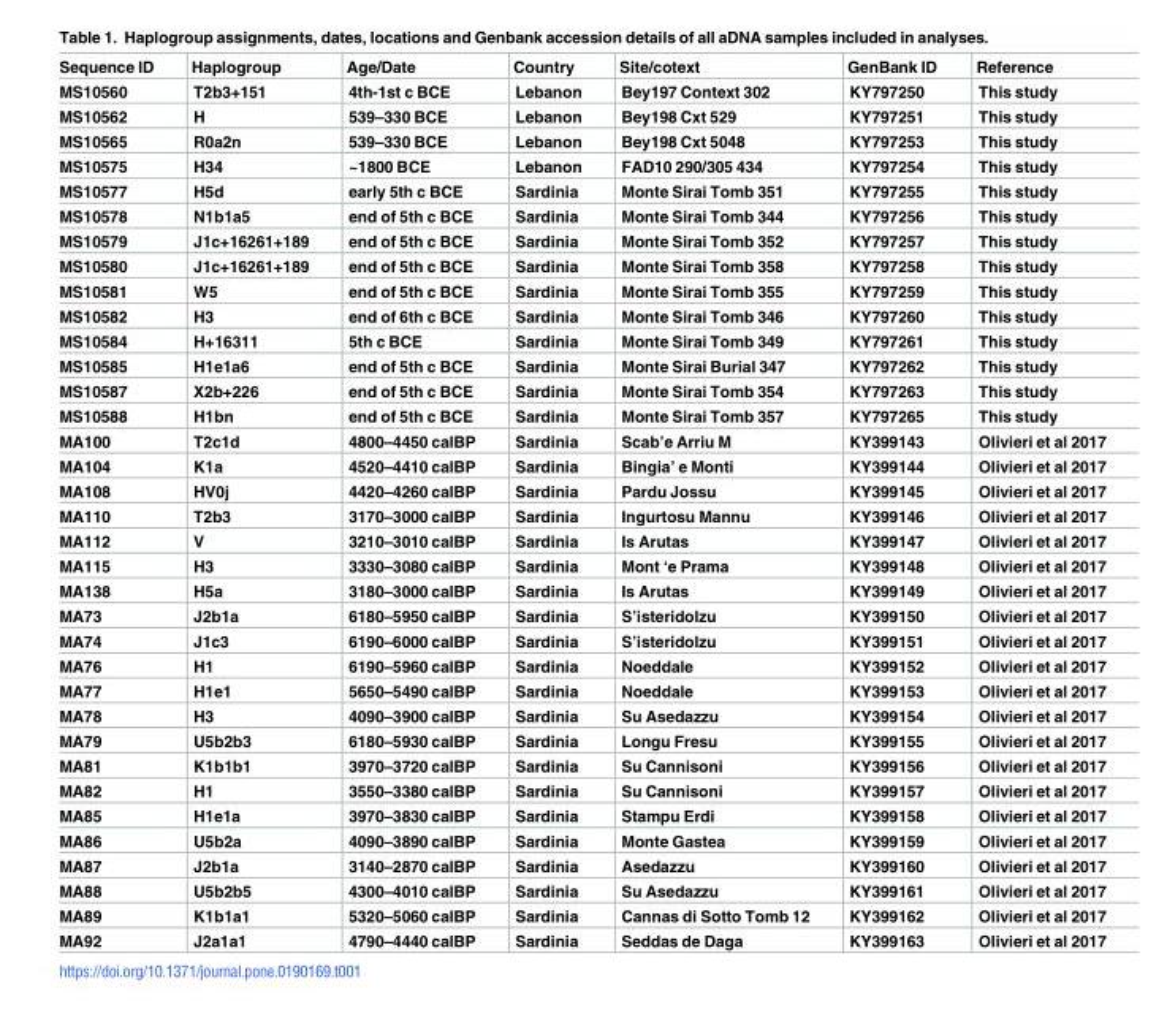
<table><thead><tr><td>Sequence ID</td><td>Haplogroup</td><td>Age/Date</td><td>Country</td><td>Site/cotext</td><td>GenBank ID</td><td>Reference</td></tr></thead><tbody><tr><td>MS10560</td><td>T2b3+151</td><td>4th-1st c BCE</td><td>Lebanon</td><td>Bey197 Context 302</td><td>KY797250</td><td>This study</td></tr><tr><td>MS10562</td><td>H</td><td>539–330 BCE</td><td>Lebanon</td><td>Bey198 Cxt 529</td><td>KY797251</td><td>This study</td></tr><tr><td>MS10565</td><td>R0a2n</td><td>539–330 BCE</td><td>Lebanon</td><td>Bey198 Cxt 5048</td><td>KY797253</td><td>This study</td></tr><tr><td>MS10575</td><td>H34</td><td>~1800 BCE</td><td>Lebanon</td><td>FAD10 290/305 434</td><td>KY797254</td><td>This study</td></tr><tr><td>MS10577</td><td>H5d</td><td>early 5th c BCE</td><td>Sardinia</td><td>Monte Sirai Tomb 351</td><td>KY797255</td><td>This study</td></tr><tr><td>MS10578</td><td>N1b1a5</td><td>end of 5th c BCE</td><td>Sardinia</td><td>Monte Sirai Tomb 344</td><td>KY797256</td><td>This study</td></tr><tr><td>MS10579</td><td>J1c+16261+189</td><td>end of 5th c BCE</td><td>Sardinia</td><td>Monte Sirai Tomb 352</td><td>KY797257</td><td>This study</td></tr><tr><td>MS10580</td><td>J1c+16261+189</td><td>end of 5th c BCE</td><td>Sardinia</td><td>Monte Sirai Tomb 358</td><td>KY797258</td><td>This study</td></tr><tr><td>MS10581</td><td>W5</td><td>end of 5th c BCE</td><td>Sardinia</td><td>Monte Sirai Tomb 355</td><td>KY797259</td><td>This study</td></tr><tr><td>MS10582</td><td>H3</td><td>end of 6th c BCE</td><td>Sardinia</td><td>Monte Sirai Tomb 346</td><td>KY797260</td><td>This study</td></tr><tr><td>MS10584</td><td>H+16311</td><td>5th c BCE</td><td>Sardinia</td><td>Monte Sirai Tomb 349</td><td>KY797261</td><td>This study</td></tr><tr><td>MS10585</td><td>H1e1a6</td><td>end of 5th c BCE</td><td>Sardinia</td><td>Monte Sirai Burial 347</td><td>KY797262</td><td>This study</td></tr><tr><td>MS10587</td><td>X2b+226</td><td>end of 5th c BCE</td><td>Sardinia</td><td>Monte Sirai Tomb 354</td><td>KY797263</td><td>This study</td></tr><tr><td>MS10588</td><td>H1bn</td><td>end of 5th c BCE</td><td>Sardinia</td><td>Monte Sirai Tomb 357</td><td>KY797265</td><td>This study</td></tr><tr><td>MA100</td><td>T2c1d</td><td>4800–4450 calBP</td><td>Sardinia</td><td>Scab’e Arriu M</td><td>KY399143</td><td>Olivieri et al 2017</td></tr><tr><td>MA104</td><td>K1a</td><td>4520–4410 calBP</td><td>Sardinia</td><td>Bingia’ e Monti</td><td>KY399144</td><td>Olivieri et al 2017</td></tr><tr><td>MA108</td><td>HV0j</td><td>4420–4260 calBP</td><td>Sardinia</td><td>Pardu Jossu</td><td>KY399145</td><td>Olivieri et al 2017</td></tr><tr><td>MA110</td><td>T2b3</td><td>3170–3000 calBP</td><td>Sardinia</td><td>Ingurtosu Mannu</td><td>KY399146</td><td>Olivieri et al 2017</td></tr><tr><td>MA112</td><td>V</td><td>3210–3010 calBP</td><td>Sardinia</td><td>Is Arutas</td><td>KY399147</td><td>Olivieri et al 2017</td></tr><tr><td>MA115</td><td>H3</td><td>3330–3080 calBP</td><td>Sardinia</td><td>Mont ‘e Prama</td><td>KY399148</td><td>Olivieri et al 2017</td></tr><tr><td>MA138</td><td>H5a</td><td>3180–3000 calBP</td><td>Sardinia</td><td>Is Arutas</td><td>KY399149</td><td>Olivieri et al 2017</td></tr><tr><td>MA73</td><td>J2b1a</td><td>6180–5950 calBP</td><td>Sardinia</td><td>S’isteridolzu</td><td>KY399150</td><td>Olivieri et al 2017</td></tr><tr><td>MA74</td><td>J1c3</td><td>6190–6000 calBP</td><td>Sardinia</td><td>S’isteridolzu</td><td>KY399151</td><td>Olivieri et al 2017</td></tr><tr><td>MA76</td><td>H1</td><td>6190–5960 calBP</td><td>Sardinia</td><td>Noeddale</td><td>KY399152</td><td>Olivieri et al 2017</td></tr><tr><td>MA77</td><td>H1e1</td><td>5650–5490 calBP</td><td>Sardinia</td><td>Noeddale</td><td>KY399153</td><td>Olivieri et al 2017</td></tr><tr><td>MA78</td><td>H3</td><td>4090–3900 calBP</td><td>Sardinia</td><td>Su Asedazzu</td><td>KY399154</td><td>Olivieri et al 2017</td></tr><tr><td>MA79</td><td>U5b2b3</td><td>6180–5930 calBP</td><td>Sardinia</td><td>Longu Fresu</td><td>KY399155</td><td>Olivieri et al 2017</td></tr><tr><td>MA81</td><td>K1b1b1</td><td>3970–3720 calBP</td><td>Sardinia</td><td>Su Cannisoni</td><td>KY399156</td><td>Olivieri et al 2017</td></tr><tr><td>MA82</td><td>H1</td><td>3550–3380 calBP</td><td>Sardinia</td><td>Su Cannisoni</td><td>KY399157</td><td>Olivieri et al 2017</td></tr><tr><td>MA85</td><td>H1e1a</td><td>3970–3830 calBP</td><td>Sardinia</td><td>Stampu Erdi</td><td>KY399158</td><td>Olivieri et al 2017</td></tr><tr><td>MA86</td><td>U5b2a</td><td>4090–3890 calBP</td><td>Sardinia</td><td>Monte Gastea</td><td>KY399159</td><td>Olivieri et al 2017</td></tr><tr><td>MA87</td><td>J2b1a</td><td>3140–2870 calBP</td><td>Sardinia</td><td>Asedazzu</td><td>KY399160</td><td>Olivieri et al 2017</td></tr><tr><td>MA88</td><td>U5b2b5</td><td>4300–4010 calBP</td><td>Sardinia</td><td>Su Asedazzu</td><td>KY399161</td><td>Olivieri et al 2017</td></tr><tr><td>MA89</td><td>K1b1a1</td><td>5320–5060 calBP</td><td>Sardinia</td><td>Cannas di Sotto Tomb 12</td><td>KY399162</td><td>Olivieri et al 2017</td></tr><tr><td>MA92</td><td>J2a1a1</td><td>4790–4440 calBP</td><td>Sardinia</td><td>Seddas de Daga</td><td>KY399163</td><td>Olivieri et al 2017</td></tr></tbody></table>